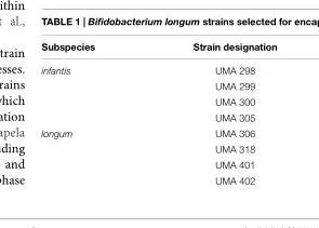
<table><thead><tr><td>Subspecies</td><td>Strain designation</td></tr></thead><tbody><tr><td rowspan="4">infantis</td><td>UMA 298</td></tr><tr><td>UMA 299</td></tr><tr><td>UMA 300</td></tr><tr><td>UMA 305</td></tr><tr><td rowspan="4">longum</td><td>UMA 306</td></tr><tr><td>UMA 318</td></tr><tr><td>UMA 401</td></tr><tr><td>UMA 402</td></tr></tbody></table>